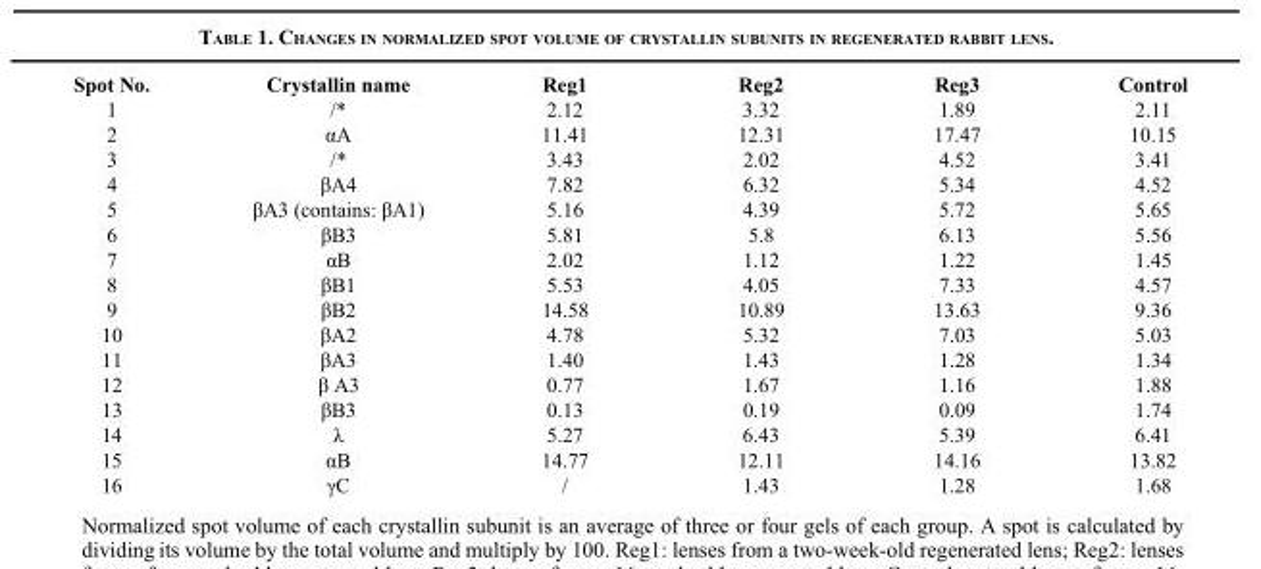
<table><tbody><tr><td>Spot No.</td><td>Crystallin name</td><td>Reg1</td><td>Reg2</td><td>Reg3</td><td>Control</td></tr><tr><td>1</td><td>/*</td><td>2.12</td><td>3.32</td><td>1.89</td><td>2.11</td></tr><tr><td>2</td><td>αA</td><td>11.41</td><td>12.31</td><td>17.47</td><td>10.15</td></tr><tr><td>3</td><td>/*</td><td>3.43</td><td>2.02</td><td>4.52</td><td>3.41</td></tr><tr><td>4</td><td>βA4</td><td>7.82</td><td>6.32</td><td>5.34</td><td>4.52</td></tr><tr><td>5</td><td>βA3 (contains: βA1)</td><td>5.16</td><td>4.39</td><td>5.72</td><td>5.65</td></tr><tr><td>6</td><td>βB3</td><td>5.81</td><td>5.8</td><td>6.13</td><td>5.56</td></tr><tr><td>7</td><td>αB</td><td>2.02</td><td>1.12</td><td>1.22</td><td>1.45</td></tr><tr><td>8</td><td>βB1</td><td>5.53</td><td>4.05</td><td>7.33</td><td>4.57</td></tr><tr><td>9</td><td>βB2</td><td>14.58</td><td>10.89</td><td>13.63</td><td>9.36</td></tr><tr><td>10</td><td>βA2</td><td>4.78</td><td>5.32</td><td>7.03</td><td>5.03</td></tr><tr><td>11</td><td>βA3</td><td>1.40</td><td>1.43</td><td>1.28</td><td>1.34</td></tr><tr><td>12</td><td>β A3</td><td>0.77</td><td>1.67</td><td>1.16</td><td>1.88</td></tr><tr><td>13</td><td>βB3</td><td>0.13</td><td>0.19</td><td>0.09</td><td>1.74</td></tr><tr><td>14</td><td>λ</td><td>5.27</td><td>6.43</td><td>5.39</td><td>6.41</td></tr><tr><td>15</td><td>αB</td><td>14.77</td><td>12.11</td><td>14.16</td><td>13.82</td></tr><tr><td>16</td><td>γC</td><td>/</td><td>1.43</td><td>1.28</td><td>1.68</td></tr></tbody></table>